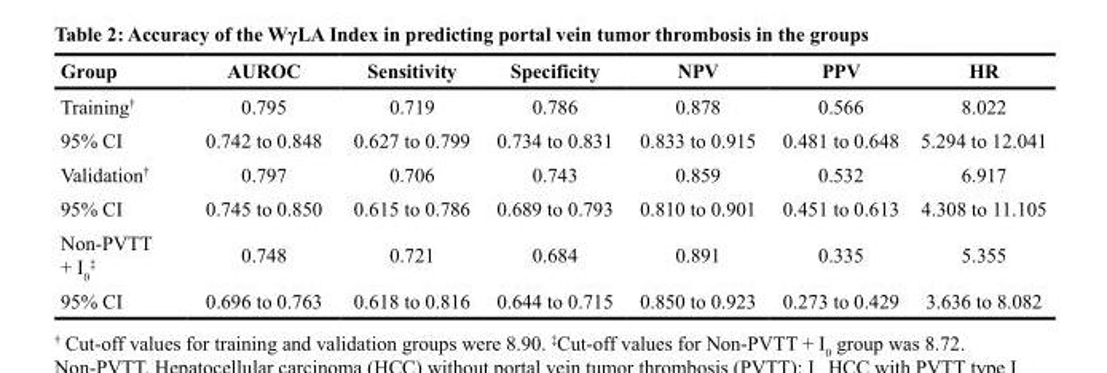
<table><thead><tr><td>Group</td><td>AUROC</td><td>Sensitivity</td><td>Specificity</td><td>NPV</td><td>PPV</td><td>HR</td></tr></thead><tbody><tr><td>Training<sup>†</sup></td><td>0.795</td><td>0.719</td><td>0.786</td><td>0.878</td><td>0.566</td><td>8.022</td></tr><tr><td>95% CI</td><td>0.742 to 0.848</td><td>0.627 to 0.799</td><td>0.734 to 0.831</td><td>0.833 to 0.915</td><td>0.481 to 0.648</td><td>5.294 to 12.041</td></tr><tr><td>Validation<sup>†</sup></td><td>0.797</td><td>0.706</td><td>0.743</td><td>0.859</td><td>0.532</td><td>6.917</td></tr><tr><td>95% CI</td><td>0.745 to 0.850</td><td>0.615 to 0.786</td><td>0.689 to 0.793</td><td>0.810 to 0.901</td><td>0.451 to 0.613</td><td>4.308 to 11.105</td></tr><tr><td>Non-PVTT + I<sub>0</sub> <sup>‡</sup></td><td>0.748</td><td>0.721</td><td>0.684</td><td>0.891</td><td>0.335</td><td>5.355</td></tr><tr><td>95% CI</td><td>0.696 to 0.763</td><td>0.618 to 0.816</td><td>0.644 to 0.715</td><td>0.850 to 0.923</td><td>0.273 to 0.429</td><td>3.636 to 8.082</td></tr></tbody></table>